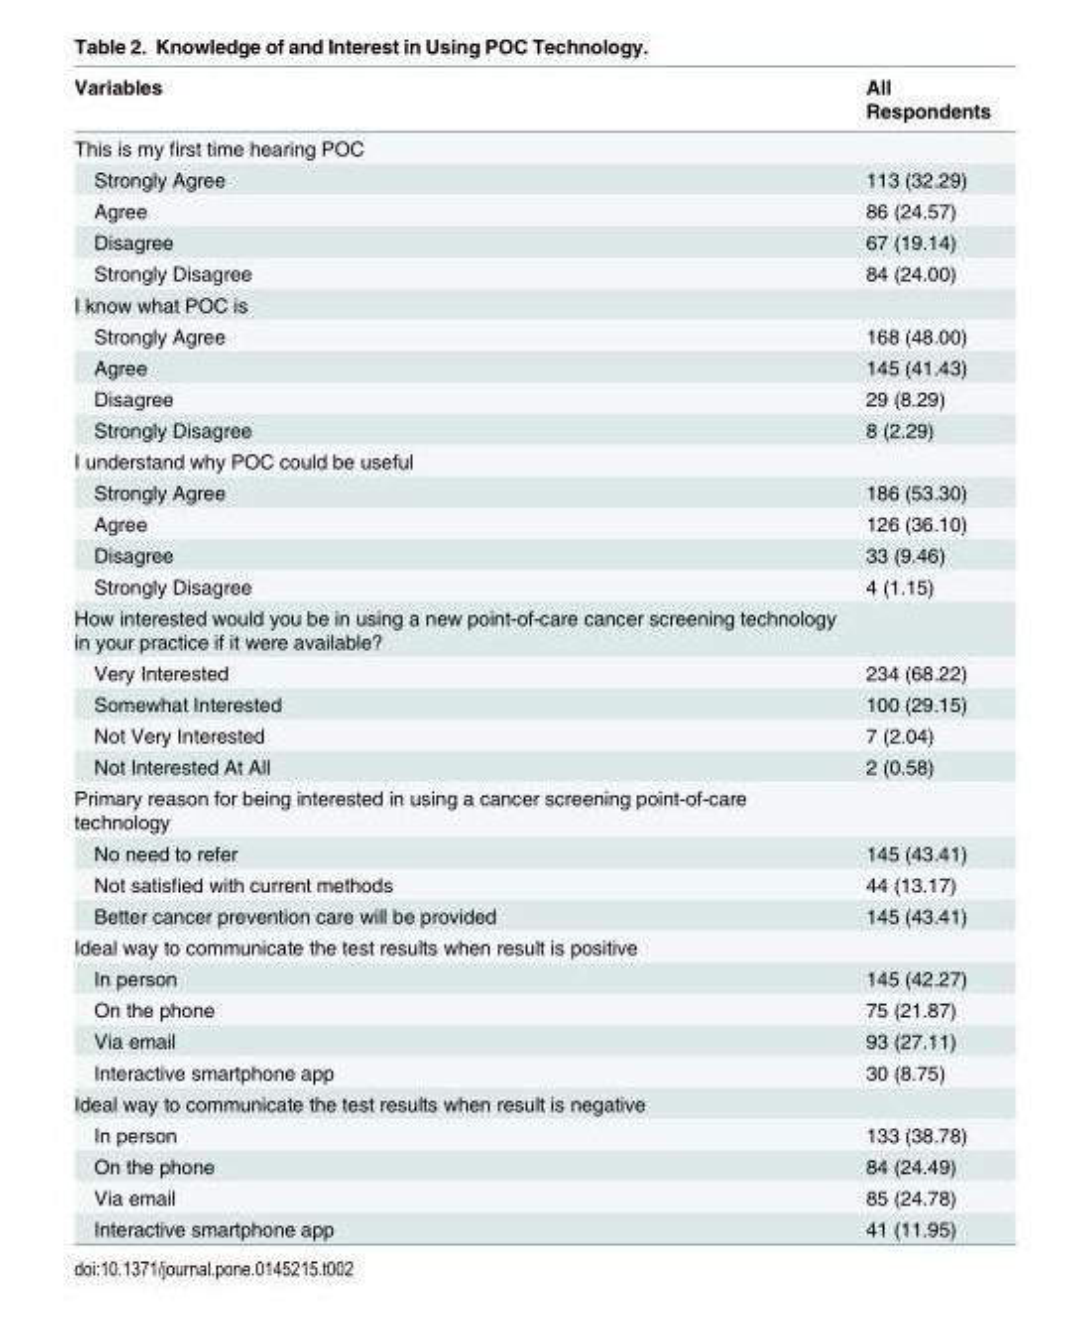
<table><thead><tr><td>Variables</td><td>All Respondents</td></tr></thead><tbody><tr><td colspan="2">This is my first time hearing POC</td></tr><tr><td>Strongly Agree</td><td>113 (32.29)</td></tr><tr><td>Agree</td><td>86 (24.57)</td></tr><tr><td>Disagree</td><td>67 (19.14)</td></tr><tr><td>Strongly Disagree</td><td>84 (24.00)</td></tr><tr><td colspan="2">I know what POC is</td></tr><tr><td>Strongly Agree</td><td>168 (48.00)</td></tr><tr><td>Agree</td><td>145 (41.43)</td></tr><tr><td>Disagree</td><td>29 (8.29)</td></tr><tr><td>Strongly Disagree</td><td>8 (2.29)</td></tr><tr><td colspan="2">I understand why POC could be useful</td></tr><tr><td>Strongly Agree</td><td>186 (53.30)</td></tr><tr><td>Agree</td><td>126 (36.10)</td></tr><tr><td>Disagree</td><td>33 (9.46)</td></tr><tr><td>Strongly Disagree</td><td>4 (1.15)</td></tr><tr><td colspan="2">How interested would you be in using a new point-of-care cancer screening technology in your practice if it were available?</td></tr><tr><td>Very Interested</td><td>234 (68.22)</td></tr><tr><td>Somewhat Interested</td><td>100 (29.15)</td></tr><tr><td>Not Very Interested</td><td>7 (2.04)</td></tr><tr><td>Not Interested At All</td><td>2 (0.58)</td></tr><tr><td colspan="2">Primary reason for being interested in using a cancer screening point-of-care technology</td></tr><tr><td>No need to refer</td><td>145 (43.41)</td></tr><tr><td>Not satisfied with current methods</td><td>44 (13.17)</td></tr><tr><td>Better cancer prevention care will be provided</td><td>145 (43.41)</td></tr><tr><td colspan="2">Ideal way to communicate the test results when result is positive</td></tr><tr><td>In person</td><td>145 (42.27)</td></tr><tr><td>On the phone</td><td>75 (21.87)</td></tr><tr><td>Via email</td><td>93 (27.11)</td></tr><tr><td>Interactive smartphone app</td><td>30 (8.75)</td></tr><tr><td colspan="2">Ideal way to communicate the test results when result is negative</td></tr><tr><td>In person</td><td>133 (38.78)</td></tr><tr><td>On the phone</td><td>84 (24.49)</td></tr><tr><td>Via email</td><td>85 (24.78)</td></tr><tr><td>Interactive smartphone app</td><td>41 (11.95)</td></tr></tbody></table>